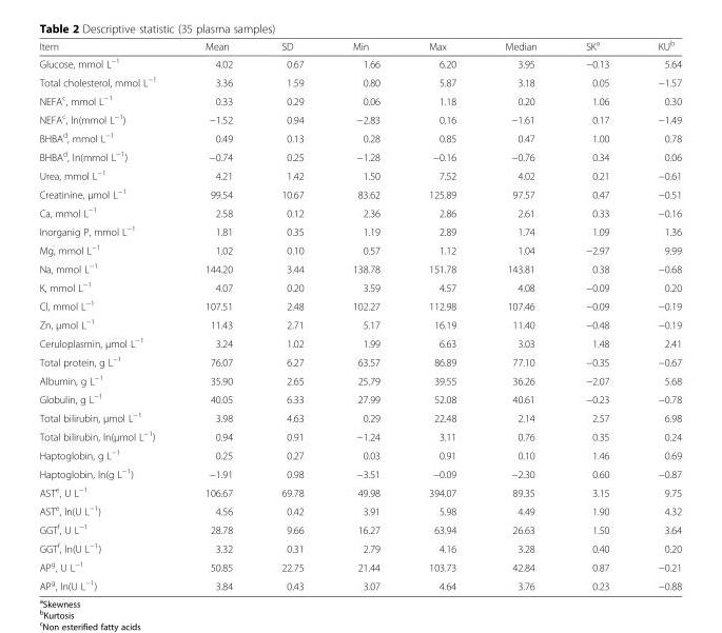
<table><thead><tr><td>Item</td><td>Mean</td><td>SD</td><td>Min</td><td>Max</td><td>Median</td><td>SK<sup>a</sup></td><td>KU<sup>b</sup></td></tr></thead><tbody><tr><td>Glucose, mmol L<sup>−1</sup></td><td>4.02</td><td>0.67</td><td>1.66</td><td>6.20</td><td>3.95</td><td>−0.13</td><td>5.64</td></tr><tr><td>Total cholesterol, mmol L<sup>−1</sup></td><td>3.36</td><td>1.59</td><td>0.80</td><td>5.87</td><td>3.18</td><td>0.05</td><td>−1.57</td></tr><tr><td>NEFA<sup>c</sup>, mmol L<sup>−1</sup></td><td>0.33</td><td>0.29</td><td>0.06</td><td>1.18</td><td>0.20</td><td>1.06</td><td>0.30</td></tr><tr><td>NEFA<sup>c</sup>, ln(mmol L<sup>−1</sup>)</td><td>−1.52</td><td>0.94</td><td>−2.83</td><td>0.16</td><td>−1.61</td><td>0.17</td><td>−1.49</td></tr><tr><td>BHBA<sup>d</sup>, mmol L<sup>−1</sup></td><td>0.49</td><td>0.13</td><td>0.28</td><td>0.85</td><td>0.47</td><td>1.00</td><td>0.78</td></tr><tr><td>BHBA<sup>d</sup>, ln(mmol L<sup>−1</sup>)</td><td>−0.74</td><td>0.25</td><td>−1.28</td><td>−0.16</td><td>−0.76</td><td>0.34</td><td>0.06</td></tr><tr><td>Urea, mmol L<sup>−1</sup></td><td>4.21</td><td>1.42</td><td>1.50</td><td>7.52</td><td>4.02</td><td>0.21</td><td>−0.61</td></tr><tr><td>Creatinine, μmol L<sup>−1</sup></td><td>99.54</td><td>10.67</td><td>83.62</td><td>125.89</td><td>97.57</td><td>0.47</td><td>−0.51</td></tr><tr><td>Ca, mmol L<sup>−1</sup></td><td>2.58</td><td>0.12</td><td>2.36</td><td>2.86</td><td>2.61</td><td>0.33</td><td>−0.16</td></tr><tr><td>Inorganig P, mmol L<sup>−1</sup></td><td>1.81</td><td>0.35</td><td>1.19</td><td>2.89</td><td>1.74</td><td>1.09</td><td>1.36</td></tr><tr><td>Mg, mmol L<sup>−1</sup></td><td>1.02</td><td>0.10</td><td>0.57</td><td>1.12</td><td>1.04</td><td>−2.97</td><td>9.99</td></tr><tr><td>Na, mmol L<sup>−1</sup></td><td>144.20</td><td>3.44</td><td>138.78</td><td>151.78</td><td>143.81</td><td>0.38</td><td>−0.68</td></tr><tr><td>K, mmol L<sup>−1</sup></td><td>4.07</td><td>0.20</td><td>3.59</td><td>4.57</td><td>4.08</td><td>−0.09</td><td>0.20</td></tr><tr><td>Cl, mmol L<sup>−1</sup></td><td>107.51</td><td>2.48</td><td>102.27</td><td>112.98</td><td>107.46</td><td>−0.09</td><td>−0.19</td></tr><tr><td>Zn, μmol L<sup>−1</sup></td><td>11.43</td><td>2.71</td><td>5.17</td><td>16.19</td><td>11.40</td><td>−0.48</td><td>−0.19</td></tr><tr><td>Ceruloplasmin, μmol L<sup>−1</sup></td><td>3.24</td><td>1.02</td><td>1.99</td><td>6.63</td><td>3.03</td><td>1.48</td><td>2.41</td></tr><tr><td>Total protein, g L<sup>−1</sup></td><td>76.07</td><td>6.27</td><td>63.57</td><td>86.89</td><td>77.10</td><td>−0.35</td><td>−0.67</td></tr><tr><td>Albumin, g L<sup>−1</sup></td><td>35.90</td><td>2.65</td><td>25.79</td><td>39.55</td><td>36.26</td><td>−2.07</td><td>5.68</td></tr><tr><td>Globulin, g L<sup>−1</sup></td><td>40.05</td><td>6.33</td><td>27.99</td><td>52.08</td><td>40.61</td><td>−0.23</td><td>−0.78</td></tr><tr><td>Total bilirubin, μmol L<sup>−1</sup></td><td>3.98</td><td>4.63</td><td>0.29</td><td>22.48</td><td>2.14</td><td>2.57</td><td>6.98</td></tr><tr><td>Total bilirubin, ln(μmol L<sup>−1</sup>)</td><td>0.94</td><td>0.91</td><td>−1.24</td><td>3.11</td><td>0.76</td><td>0.35</td><td>0.24</td></tr><tr><td>Haptoglobin, g L<sup>−1</sup></td><td>0.25</td><td>0.27</td><td>0.03</td><td>0.91</td><td>0.10</td><td>1.46</td><td>0.69</td></tr><tr><td>Haptoglobin, ln(g L<sup>−1</sup>)</td><td>−1.91</td><td>0.98</td><td>−3.51</td><td>−0.09</td><td>−2.30</td><td>0.60</td><td>−0.87</td></tr><tr><td>AST<sup>e</sup>, U L<sup>−1</sup></td><td>106.67</td><td>69.78</td><td>49.98</td><td>394.07</td><td>89.35</td><td>3.15</td><td>9.75</td></tr><tr><td>AST<sup>e</sup>, ln(U L<sup>−1</sup>)</td><td>4.56</td><td>0.42</td><td>3.91</td><td>5.98</td><td>4.49</td><td>1.90</td><td>4.32</td></tr><tr><td>GGT<sup>f</sup>, U L<sup>−1</sup></td><td>28.78</td><td>9.66</td><td>16.27</td><td>63.94</td><td>26.63</td><td>1.50</td><td>3.64</td></tr><tr><td>GGT<sup>f</sup>, ln(U L<sup>−1</sup>)</td><td>3.32</td><td>0.31</td><td>2.79</td><td>4.16</td><td>3.28</td><td>0.40</td><td>0.20</td></tr><tr><td>AP<sup>g</sup>, U L<sup>−1</sup></td><td>50.85</td><td>22.75</td><td>21.44</td><td>103.73</td><td>42.84</td><td>0.87</td><td>−0.21</td></tr><tr><td>AP<sup>g</sup>, ln(U L<sup>−1</sup>)</td><td>3.84</td><td>0.43</td><td>3.07</td><td>4.64</td><td>3.76</td><td>0.23</td><td>−0.88</td></tr></tbody></table>